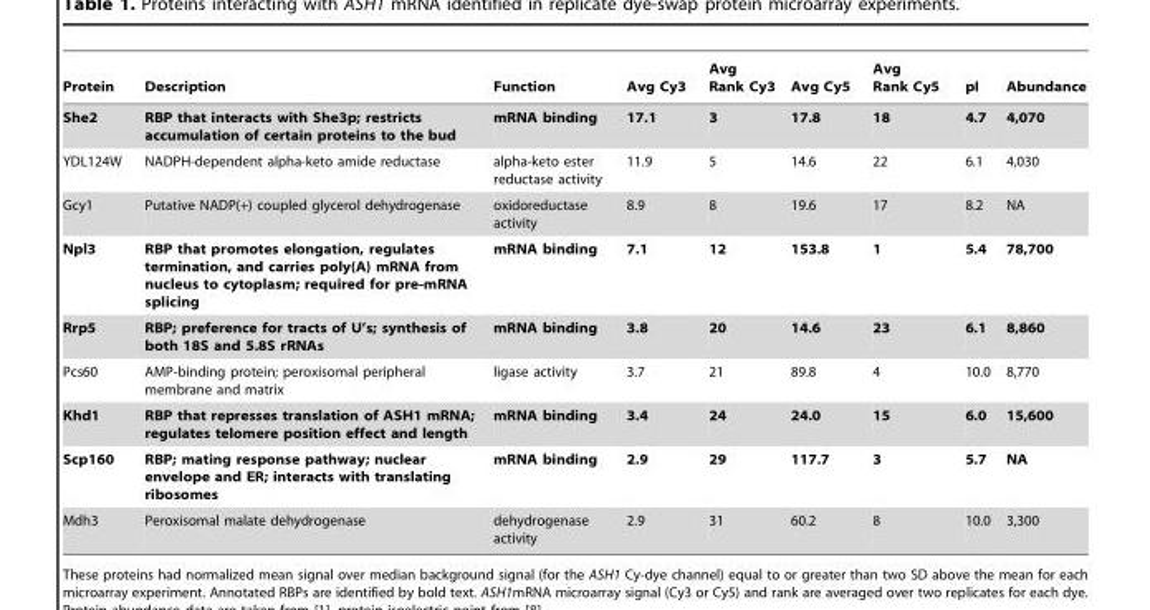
<table><thead><tr><td>Protein</td><td>Description</td><td>Function</td><td>Avg Cy3</td><td>Avg Rank Cy3</td><td>Avg Cy5</td><td>Avg Rank Cy5</td><td>pI</td><td>Abundance</td></tr></thead><tbody><tr><td>She2</td><td>RBP that interacts with She3p; restricts accumulation of certain proteins to the bud</td><td>mRNA binding</td><td>17.1</td><td>3</td><td>17.8</td><td>18</td><td>4.7</td><td>4,070</td></tr><tr><td>YDL124W</td><td>NADPH-dependent alpha-keto amide reductase</td><td>alpha-keto ester reductase activity</td><td>11.9</td><td>5</td><td>14.6</td><td>22</td><td>6.1</td><td>4,030</td></tr><tr><td>Gcy1</td><td>Putative NADP(+) coupled glycerol dehydrogenase</td><td>oxidoreductase activity</td><td>8.9</td><td>8</td><td>19.6</td><td>17</td><td>8.2</td><td>NA</td></tr><tr><td>Npl3</td><td>RBP that promotes elongation, regulates termination, and carries poly(A) mRNA from nucleus to cytoplasm; required for pre-mRNA splicing</td><td>mRNA binding</td><td>7.1</td><td>12</td><td>153.8</td><td>1</td><td>5.4</td><td>78,700</td></tr><tr><td>Rrp5</td><td>RBP; preference for tracts of U’s; synthesis of both 18S and 5.8S rRNAs</td><td>mRNA binding</td><td>3.8</td><td>20</td><td>14.6</td><td>23</td><td>6.1</td><td>8,860</td></tr><tr><td>Pcs60</td><td>AMP-binding protein; peroxisomal peripheral membrane and matrix</td><td>ligase activity</td><td>3.7</td><td>21</td><td>89.8</td><td>4</td><td>10.0</td><td>8,770</td></tr><tr><td>Khd1</td><td>RBP that represses translation of ASH1 mRNA; regulates telomere position effect and length</td><td>mRNA binding</td><td>3.4</td><td>24</td><td>24.0</td><td>15</td><td>6.0</td><td>15,600</td></tr><tr><td>Scp160</td><td>RBP; mating response pathway; nuclear envelope and ER; interacts with translating ribosomes</td><td>mRNA binding</td><td>2.9</td><td>29</td><td>117.7</td><td>3</td><td>5.7</td><td>NA</td></tr><tr><td>Mdh3</td><td>Peroxisomal malate dehydrogenase</td><td>dehydrogenase activity</td><td>2.9</td><td>31</td><td>60.2</td><td>8</td><td>10.0</td><td>3,300</td></tr></tbody></table>